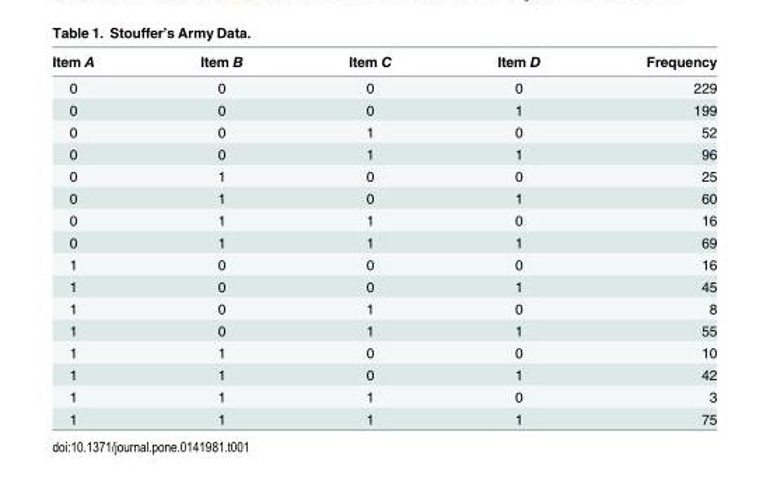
<table><thead><tr><td>Item A</td><td>Item B</td><td>Item C</td><td>Item D</td><td>Frequency</td></tr></thead><tbody><tr><td>0</td><td>0</td><td>0</td><td>0</td><td>229</td></tr><tr><td>0</td><td>0</td><td>0</td><td>1</td><td>199</td></tr><tr><td>0</td><td>0</td><td>1</td><td>0</td><td>52</td></tr><tr><td>0</td><td>0</td><td>1</td><td>1</td><td>96</td></tr><tr><td>0</td><td>1</td><td>0</td><td>0</td><td>25</td></tr><tr><td>0</td><td>1</td><td>0</td><td>1</td><td>60</td></tr><tr><td>0</td><td>1</td><td>1</td><td>0</td><td>16</td></tr><tr><td>0</td><td>1</td><td>1</td><td>1</td><td>69</td></tr><tr><td>1</td><td>0</td><td>0</td><td>0</td><td>16</td></tr><tr><td>1</td><td>0</td><td>0</td><td>1</td><td>45</td></tr><tr><td>1</td><td>0</td><td>1</td><td>0</td><td>8</td></tr><tr><td>1</td><td>0</td><td>1</td><td>1</td><td>55</td></tr><tr><td>1</td><td>1</td><td>0</td><td>0</td><td>10</td></tr><tr><td>1</td><td>1</td><td>0</td><td>1</td><td>42</td></tr><tr><td>1</td><td>1</td><td>1</td><td>0</td><td>3</td></tr><tr><td>1</td><td>1</td><td>1</td><td>1</td><td>75</td></tr></tbody></table>